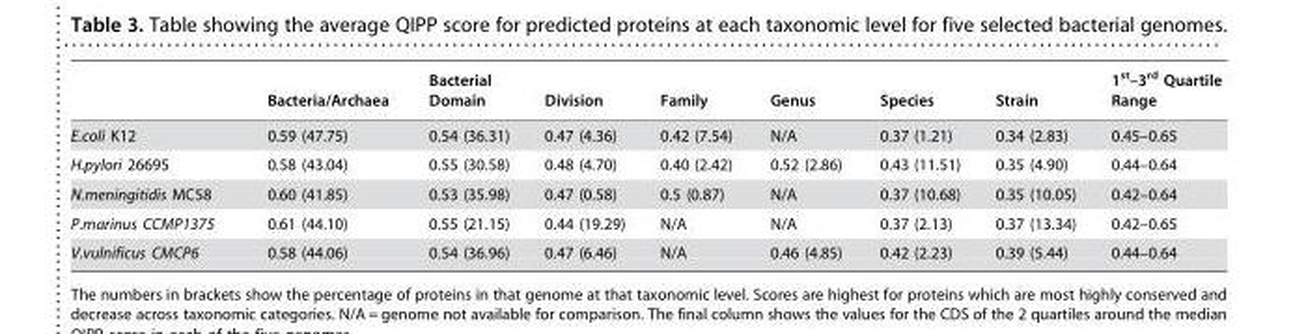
<table><thead><tr><td></td><td>Bacteria/Archaea</td><td>Bacterial Domain</td><td>Division</td><td>Family</td><td>Genus</td><td>Species</td><td>Strain</td><td>1<sup>st</sup>–3<sup>rd</sup> Quartile Range</td></tr></thead><tbody><tr><td>E.coli K12</td><td>0.59 (47.75)</td><td>0.54 (36.31)</td><td>0.47 (4.36)</td><td>0.42 (7.54)</td><td>N/A</td><td>0.37 (1.21)</td><td>0.34 (2.83)</td><td>0.45–0.65</td></tr><tr><td>H.pylori 26695</td><td>0.58 (43.04)</td><td>0.55 (30.58)</td><td>0.48 (4.70)</td><td>0.40 (2.42)</td><td>0.52 (2.86)</td><td>0.43 (11.51)</td><td>0.35 (4.90)</td><td>0.44–0.64</td></tr><tr><td>N.meningitidis MC58</td><td>0.60 (41.85)</td><td>0.53 (35.98)</td><td>0.47 (0.58)</td><td>0.5 (0.87)</td><td>N/A</td><td>0.37 (10.68)</td><td>0.35 (10.05)</td><td>0.42–0.64</td></tr><tr><td>P.marinus CCMP1375</td><td>0.61 (44.10)</td><td>0.55 (21.15)</td><td>0.44 (19.29)</td><td>N/A</td><td>N/A</td><td>0.37 (2.13)</td><td>0.37 (13.34)</td><td>0.42–0.65</td></tr><tr><td>V.vulnificus CMCP6</td><td>0.58 (44.06)</td><td>0.54 (36.96)</td><td>0.47 (6.46)</td><td>N/A</td><td>0.46 (4.85)</td><td>0.42 (2.23)</td><td>0.39 (5.44)</td><td>0.44–0.64</td></tr></tbody></table>